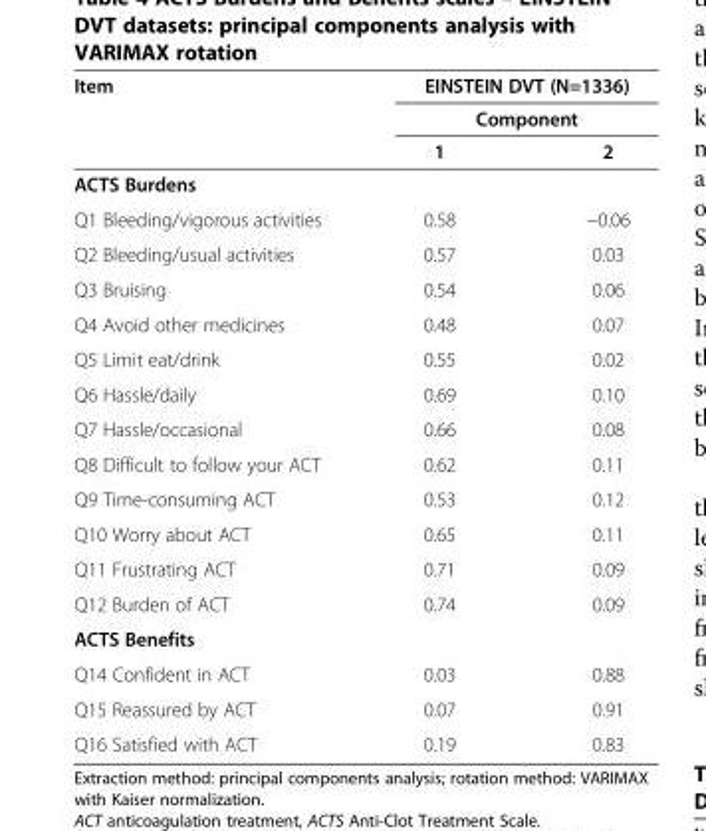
<table><thead><tr><td rowspan="3">Item</td><td rowspan="2" colspan="2">EINSTEIN DVT (N=1336) Component</td></tr><tr></tr><tr><td>1</td><td>2</td></tr></thead><tbody><tr><td colspan="3">ACTS Burdens</td></tr><tr><td>Q1 Bleeding/vigorous activities</td><td>0.58</td><td>−0.06</td></tr><tr><td>Q2 Bleeding/usual activities</td><td>0.57</td><td>0.03</td></tr><tr><td>Q3 Bruising</td><td>0.54</td><td>0.06</td></tr><tr><td>Q4 Avoid other medicines</td><td>0.48</td><td>0.07</td></tr><tr><td>Q5 Limit eat/drink</td><td>0.55</td><td>0.02</td></tr><tr><td>Q6 Hassle/daily</td><td>0.69</td><td>0.10</td></tr><tr><td>Q7 Hassle/occasional</td><td>0.66</td><td>0.08</td></tr><tr><td>Q8 Difficult to follow your ACT</td><td>0.62</td><td>0.11</td></tr><tr><td>Q9 Time-consuming ACT</td><td>0.53</td><td>0.12</td></tr><tr><td>Q10 Worry about ACT</td><td>0.65</td><td>0.11</td></tr><tr><td>Q11 Frustrating ACT</td><td>0.71</td><td>0.09</td></tr><tr><td>Q12 Burden of ACT</td><td>0.74</td><td>0.09</td></tr><tr><td colspan="3">ACTS Benefits</td></tr><tr><td>Q14 Confident in ACT</td><td>0.03</td><td>0.88</td></tr><tr><td>Q15 Reassured by ACT</td><td>0.07</td><td>0.91</td></tr><tr><td>Q16 Satisfied with ACT</td><td>0.19</td><td>0.83</td></tr></tbody></table>